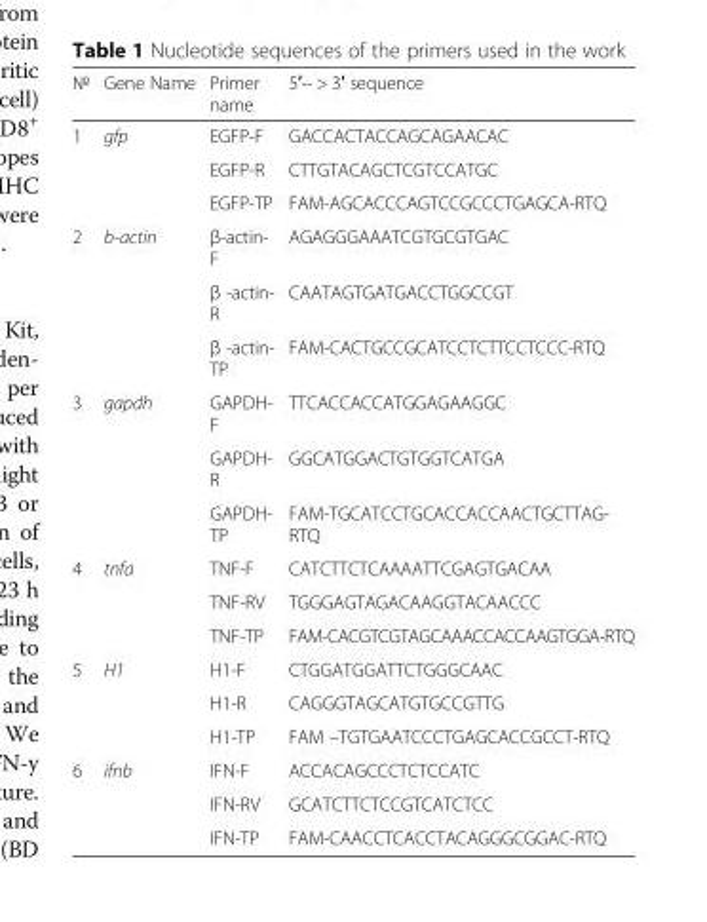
<table><thead><tr><td>№</td><td>Gene Name</td><td>Primer name</td><td>5′-- &gt; 3′ sequence</td></tr></thead><tbody><tr><td rowspan="3">1</td><td rowspan="3">gfp</td><td>EGFP-F</td><td>GACCACTACCAGCAGAACAC</td></tr><tr><td>EGFP-R</td><td>CTTGTACAGCTCGTCCATGC</td></tr><tr><td>EGFP-TP</td><td>FAM-AGCACCCAGTCCGCCCTGAGCA-RTQ</td></tr><tr><td rowspan="3">2</td><td rowspan="3">b-actin</td><td>β-actin- F</td><td>AGAGGGAAATCGTGCGTGAC</td></tr><tr><td>β -actin- R</td><td>CAATAGTGATGACCTGGCCGT</td></tr><tr><td>β -actin- TP</td><td>FAM-CACTGCCGCATCCTCTTCCTCCC-RTQ</td></tr><tr><td rowspan="3">3</td><td rowspan="3">gapdh</td><td>GAPDH- F</td><td>TTCACCACCATGGAGAAGGC</td></tr><tr><td>GAPDH- R</td><td>GGCATGGACTGTGGTCATGA</td></tr><tr><td>GAPDH- TP</td><td>FAM-TGCATCCTGCACCACCAACTGCTTAG- RTQ</td></tr><tr><td rowspan="3">4</td><td rowspan="3">tnfa</td><td>TNF-F</td><td>CATCTTCTCAAAATTCGAGTGACAA</td></tr><tr><td>TNF-RV</td><td>TGGGAGTAGACAAGGTACAACCC</td></tr><tr><td>TNF-TP</td><td>FAM-CACGTCGTAGCAAACCACCAAGTGGA-RTQ</td></tr><tr><td rowspan="3">5</td><td rowspan="3">H1</td><td>H1-F</td><td>CTGGATGGATTCTGGGCAAC</td></tr><tr><td>H1-R</td><td>CAGGGTAGCATGTGCCGTTG</td></tr><tr><td>H1-TP</td><td>FAM –TGTGAATCCCTGAGCACCGCCT-RTQ</td></tr><tr><td rowspan="3">6</td><td rowspan="3">ifnb</td><td>IFN-F</td><td>ACCACAGCCCTCTCCATC</td></tr><tr><td>IFN-RV</td><td>GCATCTTCTCCGTCATCTCC</td></tr><tr><td>IFN-TP</td><td>FAM-CAACCTCACCTACAGGGCGGAC-RTQ</td></tr></tbody></table>